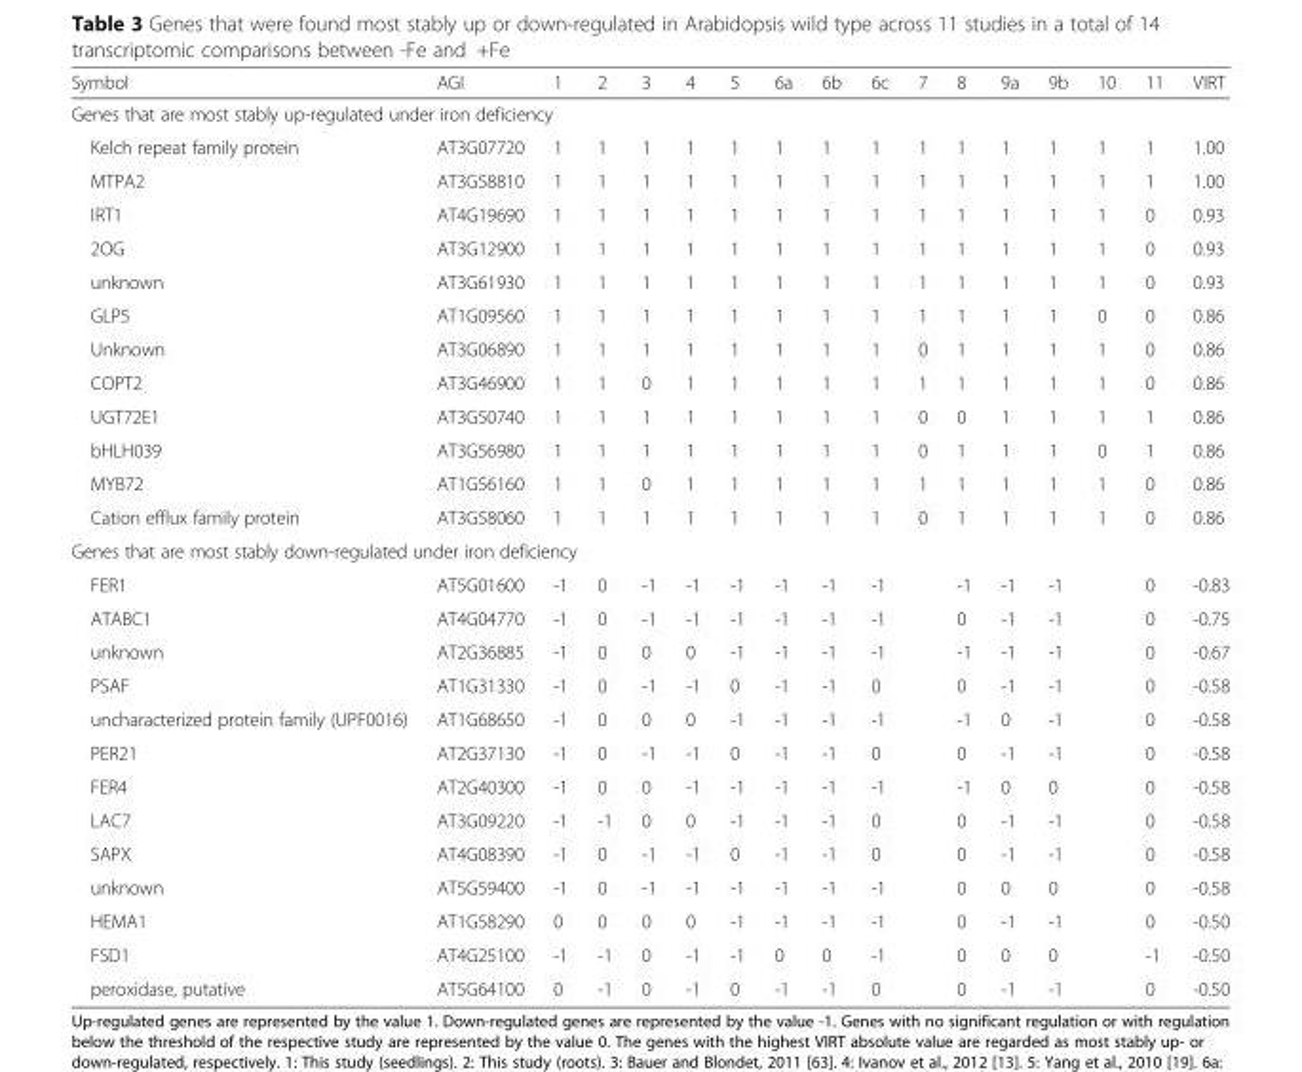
<table><thead><tr><td>Symbol</td><td>AGI</td><td>1</td><td>2</td><td>3</td><td>4</td><td>5</td><td>6a</td><td>6b</td><td>6c</td><td>7</td><td>8</td><td>9a</td><td>9b</td><td>10</td><td>11</td><td>VIRT</td></tr></thead><tbody><tr><td colspan="17">Genes that are most stably up-regulated under iron deficiency</td></tr><tr><td>Kelch repeat family protein</td><td>AT3G07720</td><td>1</td><td>1</td><td>1</td><td>1</td><td>1</td><td>1</td><td>1</td><td>1</td><td>1</td><td>1</td><td>1</td><td>1</td><td>1</td><td>1</td><td>1.00</td></tr><tr><td>MTPA2</td><td>AT3G58810</td><td>1</td><td>1</td><td>1</td><td>1</td><td>1</td><td>1</td><td>1</td><td>1</td><td>1</td><td>1</td><td>1</td><td>1</td><td>1</td><td>1</td><td>1.00</td></tr><tr><td>IRT1</td><td>AT4G19690</td><td>1</td><td>1</td><td>1</td><td>1</td><td>1</td><td>1</td><td>1</td><td>1</td><td>1</td><td>1</td><td>1</td><td>1</td><td>1</td><td>0</td><td>0.93</td></tr><tr><td>2OG</td><td>AT3G12900</td><td>1</td><td>1</td><td>1</td><td>1</td><td>1</td><td>1</td><td>1</td><td>1</td><td>1</td><td>1</td><td>1</td><td>1</td><td>1</td><td>0</td><td>0.93</td></tr><tr><td>unknown</td><td>AT3G61930</td><td>1</td><td>1</td><td>1</td><td>1</td><td>1</td><td>1</td><td>1</td><td>1</td><td>1</td><td>1</td><td>1</td><td>1</td><td>1</td><td>0</td><td>0.93</td></tr><tr><td>GLP5</td><td>AT1G09560</td><td>1</td><td>1</td><td>1</td><td>1</td><td>1</td><td>1</td><td>1</td><td>1</td><td>1</td><td>1</td><td>1</td><td>1</td><td>0</td><td>0</td><td>0.86</td></tr><tr><td>Unknown</td><td>AT3G06890</td><td>1</td><td>1</td><td>1</td><td>1</td><td>1</td><td>1</td><td>1</td><td>1</td><td>0</td><td>1</td><td>1</td><td>1</td><td>1</td><td>0</td><td>0.86</td></tr><tr><td>COPT2</td><td>AT3G46900</td><td>1</td><td>1</td><td>0</td><td>1</td><td>1</td><td>1</td><td>1</td><td>1</td><td>1</td><td>1</td><td>1</td><td>1</td><td>1</td><td>0</td><td>0.86</td></tr><tr><td>UGT72E1</td><td>AT3G50740</td><td>1</td><td>1</td><td>1</td><td>1</td><td>1</td><td>1</td><td>1</td><td>1</td><td>0</td><td>0</td><td>1</td><td>1</td><td>1</td><td>1</td><td>0.86</td></tr><tr><td>bHLH039</td><td>AT3G56980</td><td>1</td><td>1</td><td>1</td><td>1</td><td>1</td><td>1</td><td>1</td><td>1</td><td>0</td><td>1</td><td>1</td><td>1</td><td>0</td><td>1</td><td>0.86</td></tr><tr><td>MYB72</td><td>AT1G56160</td><td>1</td><td>1</td><td>0</td><td>1</td><td>1</td><td>1</td><td>1</td><td>1</td><td>1</td><td>1</td><td>1</td><td>1</td><td>1</td><td>0</td><td>0.86</td></tr><tr><td>Cation efflux family protein</td><td>AT3G58060</td><td>1</td><td>1</td><td>1</td><td>1</td><td>1</td><td>1</td><td>1</td><td>1</td><td>0</td><td>1</td><td>1</td><td>1</td><td>1</td><td>0</td><td>0.86</td></tr><tr><td colspan="17">Genes that are most stably down-regulated under iron deficiency</td></tr><tr><td>FER1</td><td>AT5G01600</td><td>-1</td><td>0</td><td>-1</td><td>-1</td><td>-1</td><td>-1</td><td>-1</td><td>-1</td><td></td><td>-1</td><td>-1</td><td>-1</td><td></td><td>0</td><td>-0.83</td></tr><tr><td>ATABC1</td><td>AT4G04770</td><td>-1</td><td>0</td><td>-1</td><td>-1</td><td>-1</td><td>-1</td><td>-1</td><td>-1</td><td></td><td>0</td><td>-1</td><td>-1</td><td></td><td>0</td><td>-0.75</td></tr><tr><td>unknown</td><td>AT2G36885</td><td>-1</td><td>0</td><td>0</td><td>0</td><td>-1</td><td>-1</td><td>-1</td><td>-1</td><td></td><td>-1</td><td>-1</td><td>-1</td><td></td><td>0</td><td>-0.67</td></tr><tr><td>PSAF</td><td>AT1G31330</td><td>-1</td><td>0</td><td>-1</td><td>-1</td><td>0</td><td>-1</td><td>-1</td><td>0</td><td></td><td>0</td><td>-1</td><td>-1</td><td></td><td>0</td><td>-0.58</td></tr><tr><td>uncharacterized protein family (UPF0016)</td><td>AT1G68650</td><td>-1</td><td>0</td><td>0</td><td>0</td><td>-1</td><td>-1</td><td>-1</td><td>-1</td><td></td><td>-1</td><td>0</td><td>-1</td><td></td><td>0</td><td>-0.58</td></tr><tr><td>PER21</td><td>AT2G37130</td><td>-1</td><td>0</td><td>-1</td><td>-1</td><td>0</td><td>-1</td><td>-1</td><td>0</td><td></td><td>0</td><td>-1</td><td>-1</td><td></td><td>0</td><td>-0.58</td></tr><tr><td>FER4</td><td>AT2G40300</td><td>-1</td><td>0</td><td>0</td><td>-1</td><td>-1</td><td>-1</td><td>-1</td><td>-1</td><td></td><td>-1</td><td>0</td><td>0</td><td></td><td>0</td><td>-0.58</td></tr><tr><td>LAC7</td><td>AT3G09220</td><td>-1</td><td>-1</td><td>0</td><td>0</td><td>-1</td><td>-1</td><td>-1</td><td>0</td><td></td><td>0</td><td>-1</td><td>-1</td><td></td><td>0</td><td>-0.58</td></tr><tr><td>SAPX</td><td>AT4G08390</td><td>-1</td><td>0</td><td>-1</td><td>-1</td><td>0</td><td>-1</td><td>-1</td><td>0</td><td></td><td>0</td><td>-1</td><td>-1</td><td></td><td>0</td><td>-0.58</td></tr><tr><td>unknown</td><td>AT5G59400</td><td>-1</td><td>0</td><td>-1</td><td>-1</td><td>-1</td><td>-1</td><td>-1</td><td>-1</td><td></td><td>0</td><td>0</td><td>0</td><td></td><td>0</td><td>-0.58</td></tr><tr><td>HEMA1</td><td>AT1G58290</td><td>0</td><td>0</td><td>0</td><td>0</td><td>-1</td><td>-1</td><td>-1</td><td>-1</td><td></td><td>0</td><td>-1</td><td>-1</td><td></td><td>0</td><td>-0.50</td></tr><tr><td>FSD1</td><td>AT4G25100</td><td>-1</td><td>-1</td><td>0</td><td>-1</td><td>-1</td><td>0</td><td>0</td><td>-1</td><td></td><td>0</td><td>0</td><td>0</td><td></td><td>-1</td><td>-0.50</td></tr><tr><td>peroxidase, putative</td><td>AT5G64100</td><td>0</td><td>-1</td><td>0</td><td>-1</td><td>0</td><td>-1</td><td>-1</td><td>0</td><td></td><td>0</td><td>-1</td><td>-1</td><td></td><td>0</td><td>-0.50</td></tr></tbody></table>